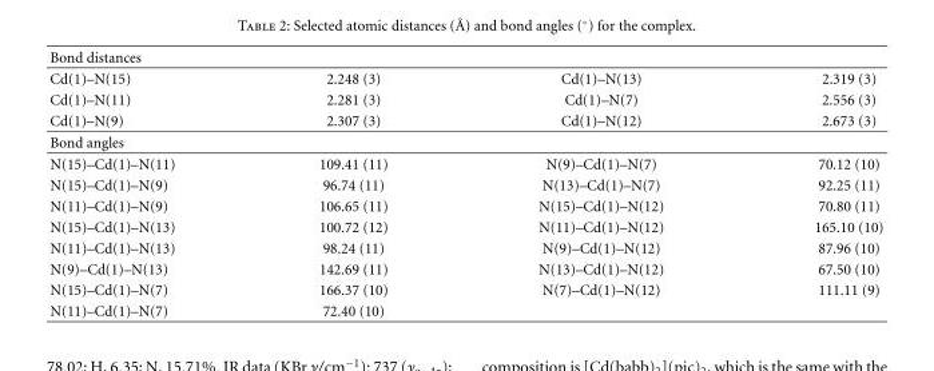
<table><thead><tr><td>Bond distances</td><td></td><td></td><td></td></tr></thead><tbody><tr><td>Cd(1)–N(15)</td><td>2.248 (3)</td><td>Cd(1)–N(13)</td><td>2.319 (3)</td></tr><tr><td>Cd(1)–N(11)</td><td>2.281 (3)</td><td>Cd(1)–N(7)</td><td>2.556 (3)</td></tr><tr><td>Cd(1)–N(9)</td><td>2.307 (3)</td><td>Cd(1)–N(12)</td><td>2.673 (3)</td></tr><tr><td colspan="4">Bond angles</td></tr><tr><td>N(15)–Cd(1)–N(11)</td><td>109.41 (11)</td><td>N(9)–Cd(1)–N(7)</td><td>70.12 (10)</td></tr><tr><td>N(15)–Cd(1)–N(9)</td><td>96.74 (11)</td><td>N(13)–Cd(1)–N(7)</td><td>92.25 (11)</td></tr><tr><td>N(11)–Cd(1)–N(9)</td><td>106.65 (11)</td><td>N(15)–Cd(1)–N(12)</td><td>70.80 (11)</td></tr><tr><td>N(15)–Cd(1)–N(13)</td><td>100.72 (12)</td><td>N(11)–Cd(1)–N(12)</td><td>165.10 (10)</td></tr><tr><td>N(11)–Cd(1)–N(13)</td><td>98.24 (11)</td><td>N(9)–Cd(1)–N(12)</td><td>87.96 (10)</td></tr><tr><td>N(9)–Cd(1)–N(13)</td><td>142.69 (11)</td><td>N(13)–Cd(1)–N(12)</td><td>67.50 (10)</td></tr><tr><td>N(15)–Cd(1)–N(7)</td><td>166.37 (10)</td><td>N(7)–Cd(1)–N(12)</td><td>111.11 (9)</td></tr><tr><td>N(11)–Cd(1)–N(7)</td><td>72.40 (10)</td><td></td><td></td></tr></tbody></table>